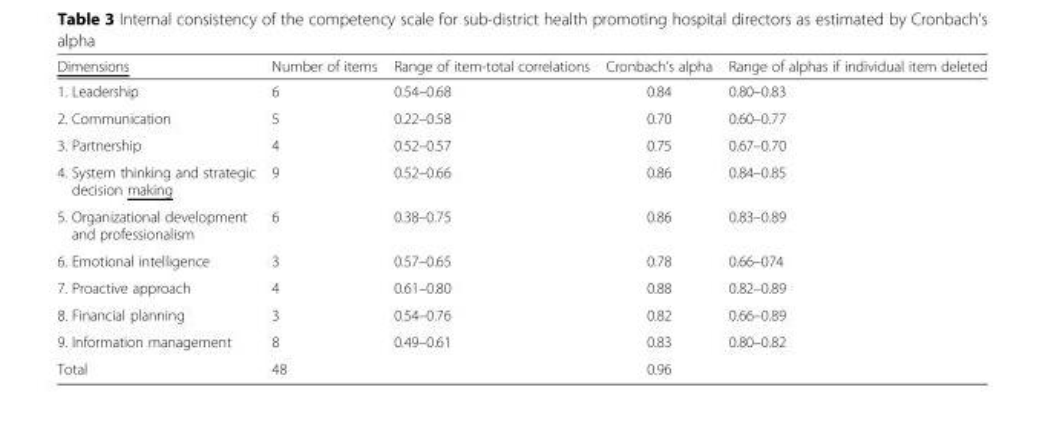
<table><thead><tr><td>Dimensions</td><td>Number of items</td><td>Range of item-total correlations</td><td>Cronbach’s alpha</td><td>Range of alphas if individual item deleted</td></tr></thead><tbody><tr><td>1. Leadership</td><td>6</td><td>0.54–0.68</td><td>0.84</td><td>0.80–0.83</td></tr><tr><td>2. Communication</td><td>5</td><td>0.22–0.58</td><td>0.70</td><td>0.60–0.77</td></tr><tr><td>3. Partnership</td><td>4</td><td>0.52–0.57</td><td>0.75</td><td>0.67–0.70</td></tr><tr><td>4. System thinking and strategic decision making</td><td>9</td><td>0.52–0.66</td><td>0.86</td><td>0.84–0.85</td></tr><tr><td>5. Organizational development and professionalism</td><td>6</td><td>0.38–0.75</td><td>0.86</td><td>0.83–0.89</td></tr><tr><td>6. Emotional intelligence</td><td>3</td><td>0.57–0.65</td><td>0.78</td><td>0.66–074</td></tr><tr><td>7. Proactive approach</td><td>4</td><td>0.61–0.80</td><td>0.88</td><td>0.82–0.89</td></tr><tr><td>8. Financial planning</td><td>3</td><td>0.54–0.76</td><td>0.82</td><td>0.66–0.89</td></tr><tr><td>9. Information management</td><td>8</td><td>0.49–0.61</td><td>0.83</td><td>0.80–0.82</td></tr><tr><td>Total</td><td>48</td><td></td><td>0.96</td><td></td></tr></tbody></table>